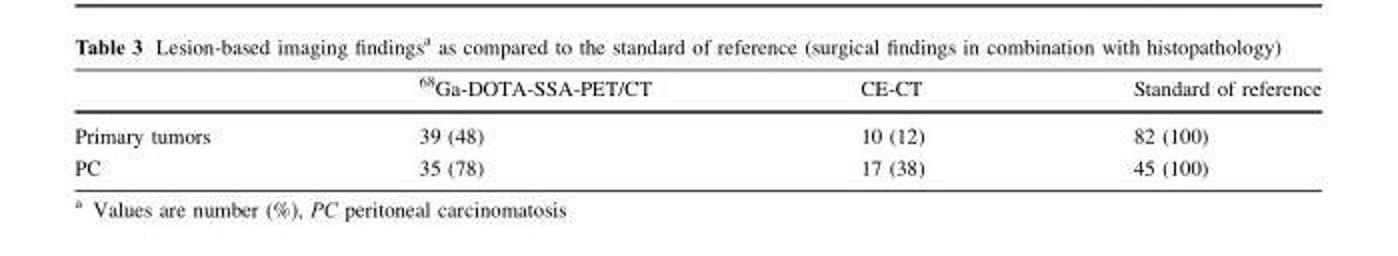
<table><thead><tr><td></td><td><sup>68</sup>Ga-DOTA-SSA-PET/CT</td><td>CE-CT</td><td>Standard of reference</td></tr></thead><tbody><tr><td>Primary tumors</td><td>39 (48)</td><td>10 (12)</td><td>82 (100)</td></tr><tr><td>PC</td><td>35 (78)</td><td>17 (38)</td><td>45 (100)</td></tr></tbody></table>